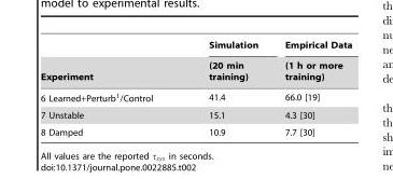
<table><thead><tr><td rowspan="2">Experiment</td><td rowspan="2">Simulation (20 min training)</td><td rowspan="2">Empirical Data (1 h or more training)</td></tr><tr></tr></thead><tbody><tr><td>6 Learned+Perturb1/Control</td><td>41.4</td><td>66.0 [19]</td></tr><tr><td>7 Unstable</td><td>15.1</td><td>4.3 [30]</td></tr><tr><td>8 Damped</td><td>10.9</td><td>7.7 [30]</td></tr></tbody></table>